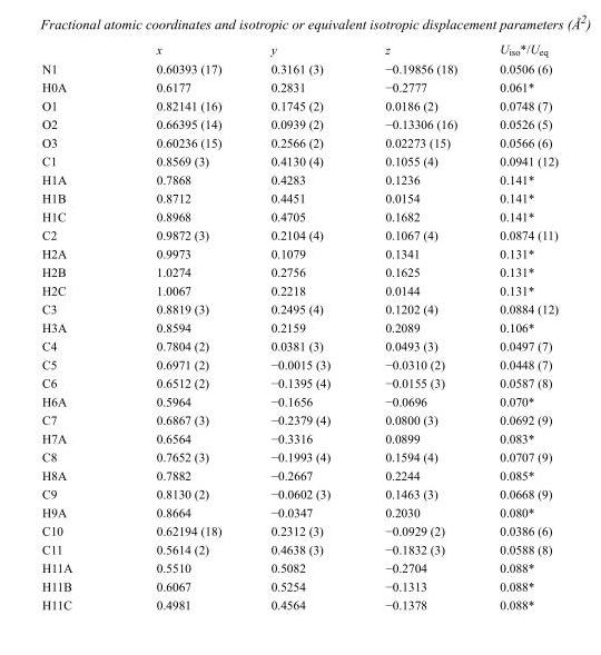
<table><thead><tr><td></td><td>x</td><td>y</td><td>z</td><td>U<sub>iso</sub>*/U<sub>eq</sub></td></tr></thead><tbody><tr><td>N1</td><td>0.60393 (17)</td><td>0.3161 (3)</td><td>−0.19856 (18)</td><td>0.0506 (6)</td></tr><tr><td>H0A</td><td>0.6177</td><td>0.2831</td><td>−0.2777</td><td>0.061*</td></tr><tr><td>O1</td><td>0.82141 (16)</td><td>0.1745 (2)</td><td>0.0186 (2)</td><td>0.0748 (7)</td></tr><tr><td>O2</td><td>0.66395 (14)</td><td>0.0939 (2)</td><td>−0.13306 (16)</td><td>0.0526 (5)</td></tr><tr><td>O3</td><td>0.60236 (15)</td><td>0.2566 (2)</td><td>0.02273 (15)</td><td>0.0566 (6)</td></tr><tr><td>C1</td><td>0.8569 (3)</td><td>0.4130 (4)</td><td>0.1055 (4)</td><td>0.0941 (12)</td></tr><tr><td>H1A</td><td>0.7868</td><td>0.4283</td><td>0.1236</td><td>0.141*</td></tr><tr><td>H1B</td><td>0.8712</td><td>0.4451</td><td>0.0154</td><td>0.141*</td></tr><tr><td>H1C</td><td>0.8968</td><td>0.4705</td><td>0.1682</td><td>0.141*</td></tr><tr><td>C2</td><td>0.9872 (3)</td><td>0.2104 (4)</td><td>0.1067 (4)</td><td>0.0874 (11)</td></tr><tr><td>H2A</td><td>0.9973</td><td>0.1079</td><td>0.1341</td><td>0.131*</td></tr><tr><td>H2B</td><td>1.0274</td><td>0.2756</td><td>0.1625</td><td>0.131*</td></tr><tr><td>H2C</td><td>1.0067</td><td>0.2218</td><td>0.0144</td><td>0.131*</td></tr><tr><td>C3</td><td>0.8819 (3)</td><td>0.2495 (4)</td><td>0.1202 (4)</td><td>0.0884 (12)</td></tr><tr><td>H3A</td><td>0.8594</td><td>0.2159</td><td>0.2089</td><td>0.106*</td></tr><tr><td>C4</td><td>0.7804 (2)</td><td>0.0381 (3)</td><td>0.0493 (3)</td><td>0.0497 (7)</td></tr><tr><td>C5</td><td>0.6971 (2)</td><td>−0.0015 (3)</td><td>−0.0310 (2)</td><td>0.0448 (7)</td></tr><tr><td>C6</td><td>0.6512 (2)</td><td>−0.1395 (4)</td><td>−0.0155 (3)</td><td>0.0587 (8)</td></tr><tr><td>H6A</td><td>0.5964</td><td>−0.1656</td><td>−0.0696</td><td>0.070*</td></tr><tr><td>C7</td><td>0.6867 (3)</td><td>−0.2379 (4)</td><td>0.0800 (3)</td><td>0.0692 (9)</td></tr><tr><td>H7A</td><td>0.6564</td><td>−0.3316</td><td>0.0899</td><td>0.083*</td></tr><tr><td>C8</td><td>0.7652 (3)</td><td>−0.1993 (4)</td><td>0.1594 (4)</td><td>0.0707 (9)</td></tr><tr><td>H8A</td><td>0.7882</td><td>−0.2667</td><td>0.2244</td><td>0.085*</td></tr><tr><td>C9</td><td>0.8130 (2)</td><td>−0.0602 (3)</td><td>0.1463 (3)</td><td>0.0668 (9)</td></tr><tr><td>H9A</td><td>0.8664</td><td>−0.0347</td><td>0.2030</td><td>0.080*</td></tr><tr><td>C10</td><td>0.62194 (18)</td><td>0.2312 (3)</td><td>−0.0929 (2)</td><td>0.0386 (6)</td></tr><tr><td>C11</td><td>0.5614 (2)</td><td>0.4638 (3)</td><td>−0.1832 (3)</td><td>0.0588 (8)</td></tr><tr><td>H11A</td><td>0.5510</td><td>0.5082</td><td>−0.2704</td><td>0.088*</td></tr><tr><td>H11B</td><td>0.6067</td><td>0.5254</td><td>−0.1313</td><td>0.088*</td></tr><tr><td>H11C</td><td>0.4981</td><td>0.4564</td><td>−0.1378</td><td>0.088*</td></tr></tbody></table>